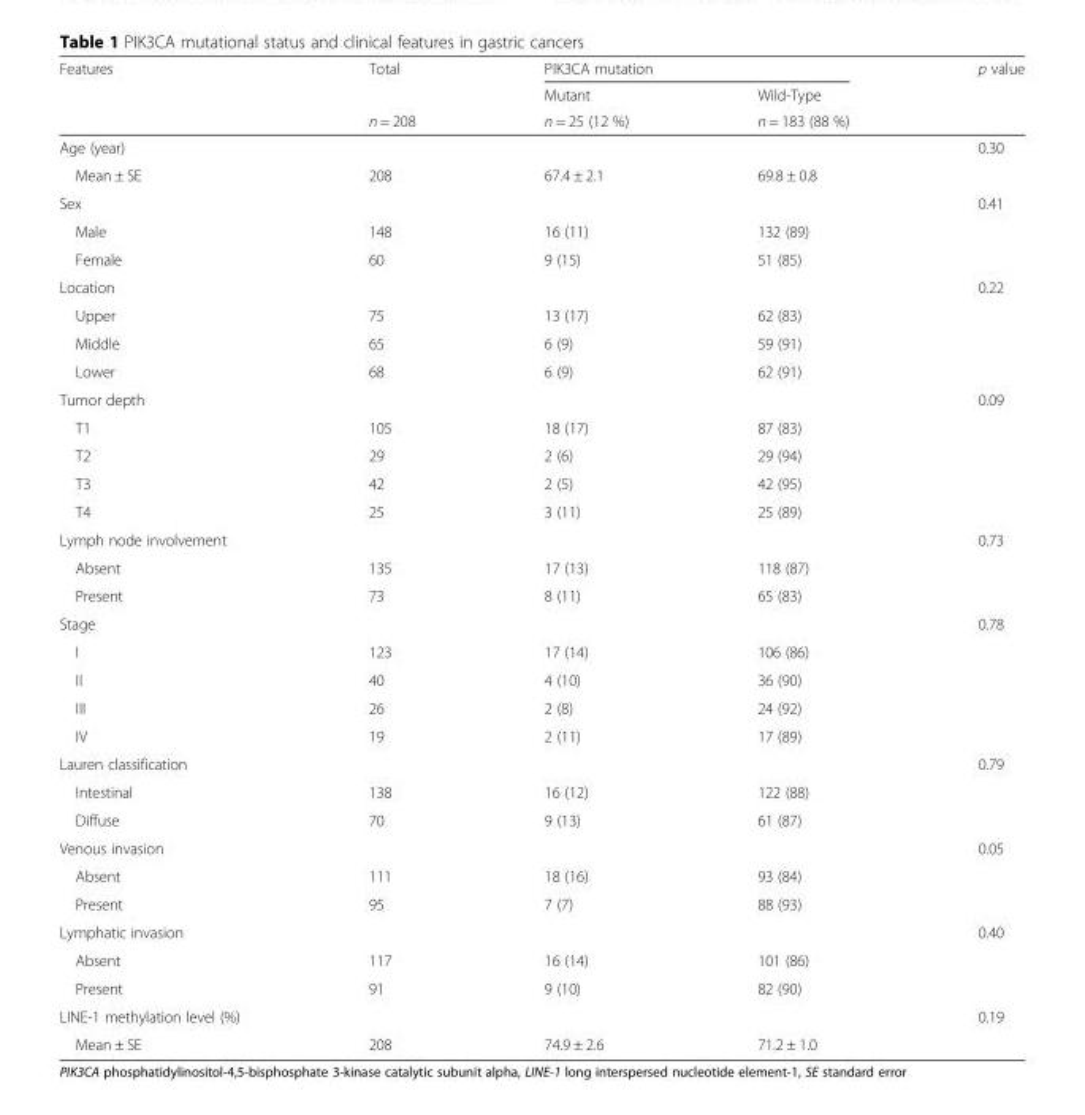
<table><thead><tr><td rowspan="3">Features</td><td rowspan="3">Total n = 208</td><td colspan="2">PIK3CA mutation</td><td rowspan="3">p value</td></tr><tr><td rowspan="2">Mutant n = 25 (12 %)</td><td rowspan="2">Wild-Type n = 183 (88 %)</td></tr><tr></tr></thead><tbody><tr><td>Age (year)</td><td></td><td></td><td></td><td>0.30</td></tr><tr><td>Mean ± SE</td><td>208</td><td>67.4 ± 2.1</td><td>69.8 ± 0.8</td><td></td></tr><tr><td>Sex</td><td></td><td></td><td></td><td>0.41</td></tr><tr><td>Male</td><td>148</td><td>16 (11)</td><td>132 (89)</td><td></td></tr><tr><td>Female</td><td>60</td><td>9 (15)</td><td>51 (85)</td><td></td></tr><tr><td>Location</td><td></td><td></td><td></td><td>0.22</td></tr><tr><td>Upper</td><td>75</td><td>13 (17)</td><td>62 (83)</td><td></td></tr><tr><td>Middle</td><td>65</td><td>6 (9)</td><td>59 (91)</td><td></td></tr><tr><td>Lower</td><td>68</td><td>6 (9)</td><td>62 (91)</td><td></td></tr><tr><td>Tumor depth</td><td></td><td></td><td></td><td>0.09</td></tr><tr><td>T1</td><td>105</td><td>18 (17)</td><td>87 (83)</td><td></td></tr><tr><td>T2</td><td>29</td><td>2 (6)</td><td>29 (94)</td><td></td></tr><tr><td>T3</td><td>42</td><td>2 (5)</td><td>42 (95)</td><td></td></tr><tr><td>T4</td><td>25</td><td>3 (11)</td><td>25 (89)</td><td></td></tr><tr><td>Lymph node involvement</td><td></td><td></td><td></td><td>0.73</td></tr><tr><td>Absent</td><td>135</td><td>17 (13)</td><td>118 (87)</td><td></td></tr><tr><td>Present</td><td>73</td><td>8 (11)</td><td>65 (83)</td><td></td></tr><tr><td>Stage</td><td></td><td></td><td></td><td>0.78</td></tr><tr><td>I</td><td>123</td><td>17 (14)</td><td>106 (86)</td><td></td></tr><tr><td>II</td><td>40</td><td>4 (10)</td><td>36 (90)</td><td></td></tr><tr><td>III</td><td>26</td><td>2 (8)</td><td>24 (92)</td><td></td></tr><tr><td>IV</td><td>19</td><td>2 (11)</td><td>17 (89)</td><td></td></tr><tr><td>Lauren classification</td><td></td><td></td><td></td><td>0.79</td></tr><tr><td>Intestinal</td><td>138</td><td>16 (12)</td><td>122 (88)</td><td></td></tr><tr><td>Diffuse</td><td>70</td><td>9 (13)</td><td>61 (87)</td><td></td></tr><tr><td>Venous invasion</td><td></td><td></td><td></td><td>0.05</td></tr><tr><td>Absent</td><td>111</td><td>18 (16)</td><td>93 (84)</td><td></td></tr><tr><td>Present</td><td>95</td><td>7 (7)</td><td>88 (93)</td><td></td></tr><tr><td>Lymphatic invasion</td><td></td><td></td><td></td><td>0.40</td></tr><tr><td>Absent</td><td>117</td><td>16 (14)</td><td>101 (86)</td><td></td></tr><tr><td>Present</td><td>91</td><td>9 (10)</td><td>82 (90)</td><td></td></tr><tr><td>LINE-1 methylation level (%)</td><td></td><td></td><td></td><td>0.19</td></tr><tr><td>Mean ± SE</td><td>208</td><td>74.9 ± 2.6</td><td>71.2 ± 1.0</td><td></td></tr></tbody></table>